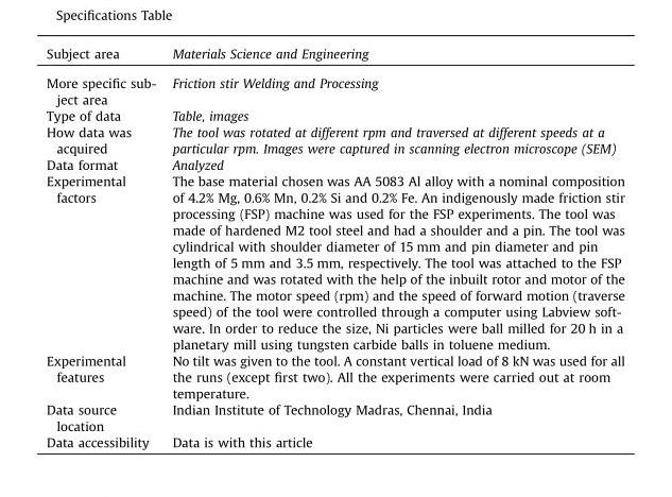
<table><thead><tr><td>Subject area</td><td>Materials Science and Engineering</td></tr></thead><tbody><tr><td>More specific sub- ject area</td><td>Friction stir Welding and Processing</td></tr><tr><td>Type of data</td><td>Table, images</td></tr><tr><td>How data was acquired</td><td>The tool was rotated at different rpm and traversed at different speeds at a particular rpm. Images were captured in scanning electron microscope (SEM)</td></tr><tr><td>Data format</td><td>Analyzed</td></tr><tr><td>Experimental factors</td><td>The base material chosen was AA 5083 Al alloy with a nominal composition of 4.2% Mg, 0.6% Mn, 0.2% Si and 0.2% Fe. An indigenously made friction stir processing (FSP) machine was used for the FSP experiments. The tool was made of hardened M2 tool steel and had a shoulder and a pin. The tool was cylindrical with shoulder diameter of 15 mm and pin diameter and pin length of 5 mm and 3.5 mm, respectively. The tool was attached to the FSP machine and was rotated with the help of the inbuilt rotor and motor of the machine. The motor speed (rpm) and the speed of forward motion (traverse speed) of the tool were controlled through a computer using Labview soft- ware. In order to reduce the size, Ni particles were ball milled for 20 h in a planetary mill using tungsten carbide balls in toluene medium.</td></tr><tr><td>Experimental features</td><td>No tilt was given to the tool. A constant vertical load of 8 kN was used for all the runs (except first two). All the experiments were carried out at room temperature.</td></tr><tr><td>Data source location</td><td>Indian Institute of Technology Madras, Chennai, India</td></tr><tr><td>Data accessibility</td><td>Data is with this article</td></tr></tbody></table>